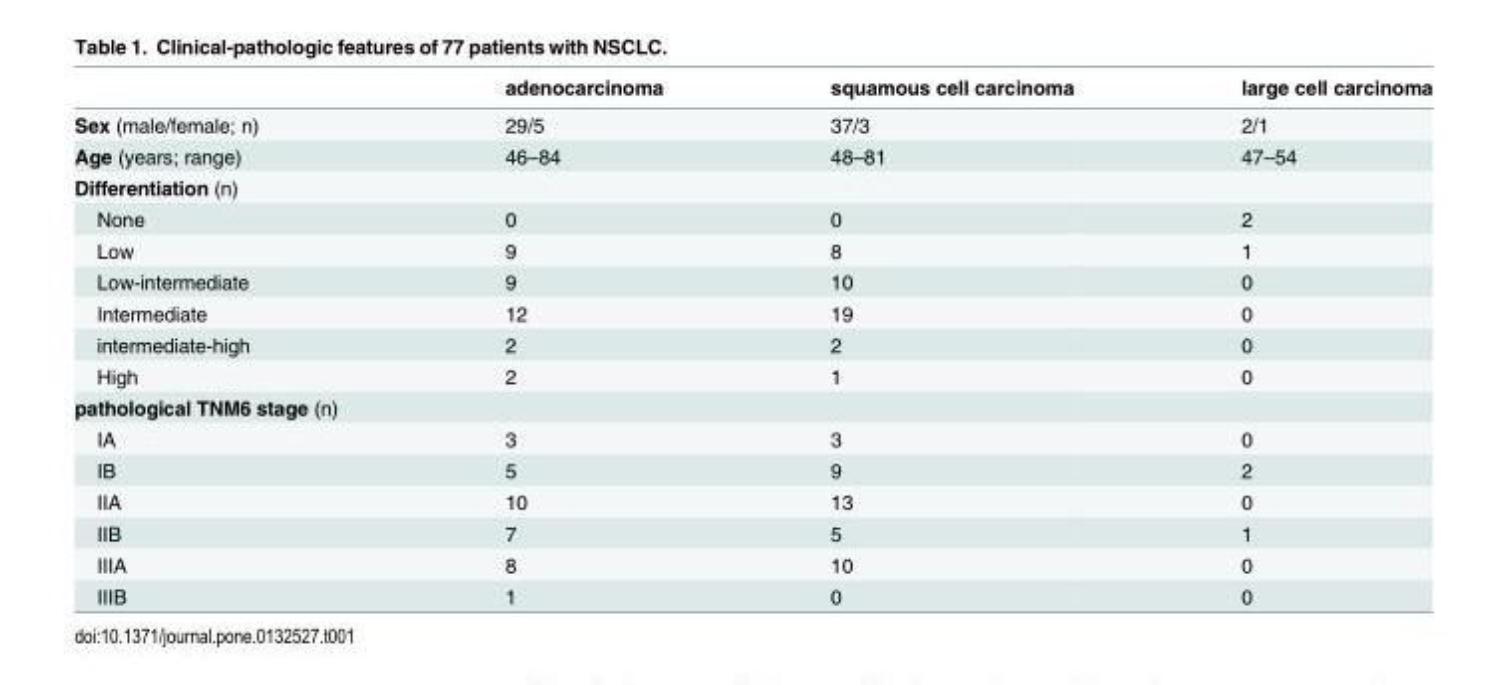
<table><thead><tr><td></td><td>adenocarcinoma</td><td>squamous cell carcinoma</td><td>large cell carcinoma</td></tr></thead><tbody><tr><td>Sex (male/female; n)</td><td>29/5</td><td>37/3</td><td>2/1</td></tr><tr><td>Age (years; range)</td><td>46–84</td><td>48–81</td><td>47–54</td></tr><tr><td colspan="4">Differentiation (n)</td></tr><tr><td>None</td><td>0</td><td>0</td><td>2</td></tr><tr><td>Low</td><td>9</td><td>8</td><td>1</td></tr><tr><td>Low-intermediate</td><td>9</td><td>10</td><td>0</td></tr><tr><td>Intermediate</td><td>12</td><td>19</td><td>0</td></tr><tr><td>intermediate-high</td><td>2</td><td>2</td><td>0</td></tr><tr><td>High</td><td>2</td><td>1</td><td>0</td></tr><tr><td colspan="4">pathological TNM6 stage (n)</td></tr><tr><td>IA</td><td>3</td><td>3</td><td>0</td></tr><tr><td>IB</td><td>5</td><td>9</td><td>2</td></tr><tr><td>IIA</td><td>10</td><td>13</td><td>0</td></tr><tr><td>IIB</td><td>7</td><td>5</td><td>1</td></tr><tr><td>IIIA</td><td>8</td><td>10</td><td>0</td></tr><tr><td>IIIB</td><td>1</td><td>0</td><td>0</td></tr></tbody></table>